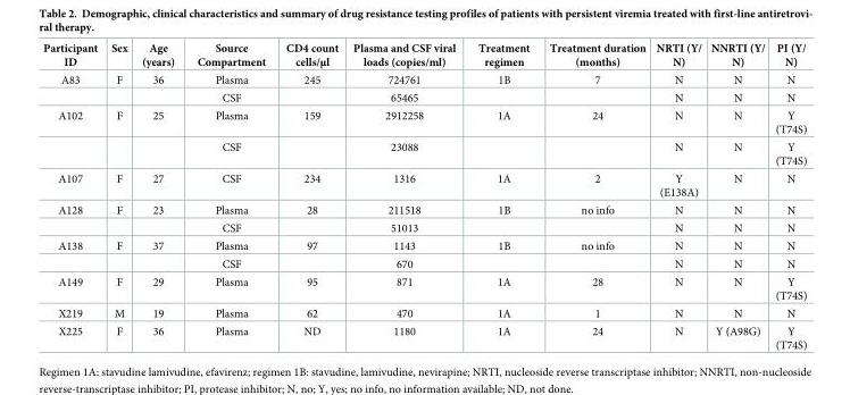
<table><thead><tr><td>Participant ID</td><td>Sex</td><td>Age (years)</td><td>Source Compartment</td><td>CD4 count cells/μl</td><td>Plasma and CSF viral loads (copies/ml)</td><td>Treatment regimen</td><td>Treatment duration (months)</td><td>NRTI (Y/ N)</td><td>NNRTI (Y/ N)</td><td>PI (Y/ N)</td></tr></thead><tbody><tr><td rowspan="2">A83</td><td>F</td><td>36</td><td>Plasma</td><td>245</td><td>724761</td><td>1B</td><td>7</td><td>N</td><td>N</td><td>N</td></tr><tr><td></td><td></td><td>CSF</td><td></td><td>65465</td><td></td><td></td><td>N</td><td>N</td><td>N</td></tr><tr><td rowspan="2">A102</td><td>F</td><td>25</td><td>Plasma</td><td>159</td><td>2912258</td><td>1A</td><td>24</td><td>N</td><td>N</td><td>Y (T74S)</td></tr><tr><td></td><td></td><td>CSF</td><td></td><td>23088</td><td></td><td></td><td>N</td><td>N</td><td>Y (T74S)</td></tr><tr><td>A107</td><td>F</td><td>27</td><td>CSF</td><td>234</td><td>1316</td><td>1A</td><td>2</td><td>Y (E138A)</td><td>N</td><td>N</td></tr><tr><td rowspan="2">A128</td><td>F</td><td>23</td><td>Plasma</td><td>28</td><td>211518</td><td>1B</td><td>no info</td><td>N</td><td>N</td><td>N</td></tr><tr><td></td><td></td><td>CSF</td><td></td><td>51013</td><td></td><td></td><td>N</td><td>N</td><td>N</td></tr><tr><td rowspan="2">A138</td><td>F</td><td>37</td><td>Plasma</td><td>97</td><td>1143</td><td>1B</td><td>no info</td><td>N</td><td>N</td><td>N</td></tr><tr><td></td><td></td><td>CSF</td><td></td><td>670</td><td></td><td></td><td>N</td><td>N</td><td>N</td></tr><tr><td>A149</td><td>F</td><td>29</td><td>Plasma</td><td>95</td><td>871</td><td>1A</td><td>28</td><td>N</td><td>N</td><td>Y (T74S)</td></tr><tr><td>X219</td><td>M</td><td>19</td><td>Plasma</td><td>62</td><td>470</td><td>1A</td><td>1</td><td>N</td><td>N</td><td>N</td></tr><tr><td>X225</td><td>F</td><td>36</td><td>Plasma</td><td>ND</td><td>1180</td><td>1A</td><td>24</td><td>N</td><td>Y (A98G)</td><td>Y (T74S)</td></tr></tbody></table>